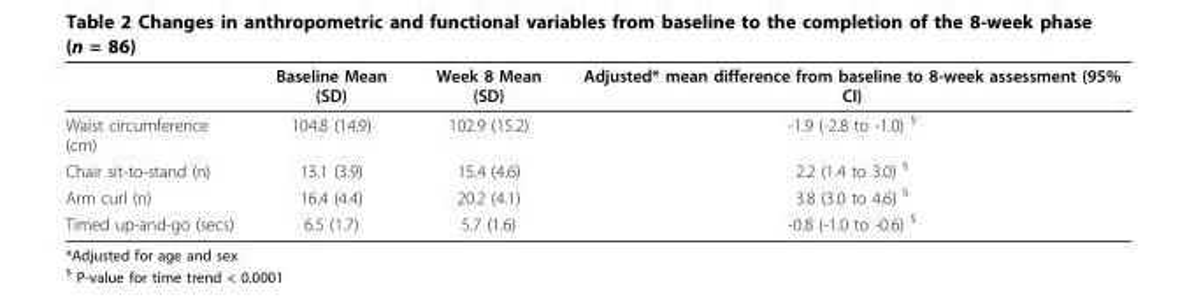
<table><thead><tr><td></td><td>Baseline Mean (SD)</td><td>Week 8 Mean (SD)</td><td>Adjusted* mean difference from baseline to 8-week assessment (95% CI)</td></tr></thead><tbody><tr><td>Waist circumference (cm)</td><td>104.8 (14.9)</td><td>102.9 (15.2)</td><td>-1.9 (-2.8 to -1.0) <sup>§</sup></td></tr><tr><td>Chair sit-to-stand (n)</td><td>13.1 (3.9)</td><td>15.4 (4.6)</td><td>2.2 (1.4 to 3.0) <sup>§</sup></td></tr><tr><td>Arm curl (n)</td><td>16.4 (4.4)</td><td>20.2 (4.1)</td><td>3.8 (3.0 to 4.6) <sup>§</sup></td></tr><tr><td>Timed up-and-go (secs)</td><td>6.5 (1.7)</td><td>5.7 (1.6)</td><td>-0.8 (-1.0 to -0.6) <sup>§</sup></td></tr></tbody></table>